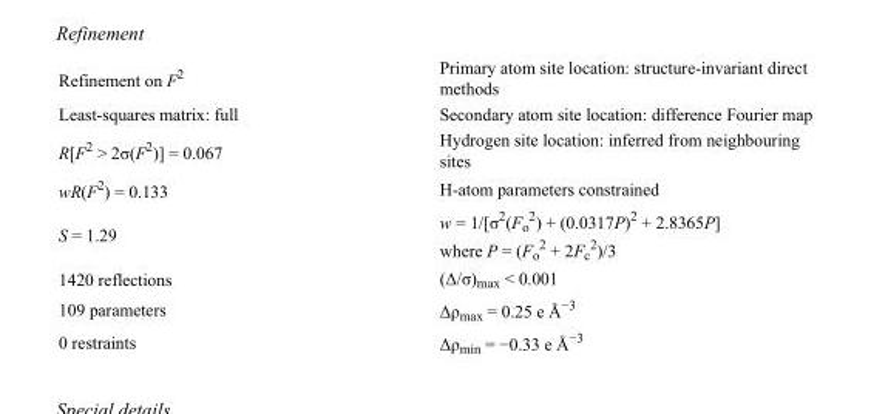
<table><tbody><tr><td>Refinement on F<sup>2</sup></td><td>Primary atom site location: structure-invariant direct methods</td></tr><tr><td>Least-squares matrix: full</td><td>Secondary atom site location: difference Fourier map</td></tr><tr><td>R[F<sup>2</sup> &gt; 2σ(F<sup>2</sup>)] = 0.067</td><td>Hydrogen site location: inferred from neighbouring sites</td></tr><tr><td>wR(F<sup>2</sup>) = 0.133</td><td>H-atom parameters constrained</td></tr><tr><td>S = 1.29</td><td>w = 1/[σ<sup>2</sup>(F<sub>o</sub> <sup>2</sup>) + (0.0317P)<sup>2</sup> + 2.8365P] where P = (F<sub>o</sub> <sup>2</sup> + 2F<sub>c</sub> <sup>2</sup>)/3</td></tr><tr><td>1420 reflections</td><td>(Δ/σ)<sub>max</sub> &lt; 0.001</td></tr><tr><td>109 parameters</td><td>Δρ<sub>max</sub> = 0.25 e Å<sup>−3</sup></td></tr><tr><td>0 restraints</td><td>Δρ<sub>min</sub> = −0.33 e Å<sup>−3</sup></td></tr></tbody></table>